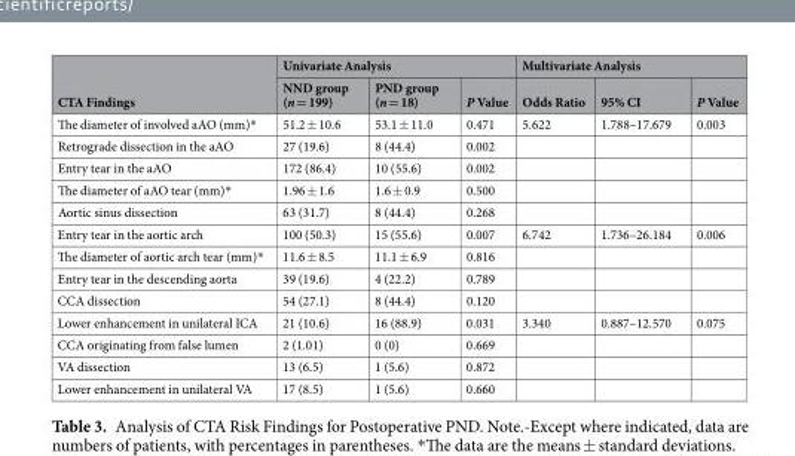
<table><thead><tr><td rowspan="2">CTA Findings</td><td colspan="3">Univariate Analysis</td><td colspan="3">Multivariate Analysis</td></tr><tr><td>NND group (n = 199)</td><td>PND group (n = 18)</td><td>P Value</td><td>Odds Ratio</td><td>95% CI</td><td>P Value</td></tr></thead><tbody><tr><td>The diameter of involved aAO (mm)*</td><td>51.2 ± 10.6</td><td>53.1 ± 11.0</td><td>0.471</td><td>5.622</td><td>1.788–17.679</td><td>0.003</td></tr><tr><td>Retrograde dissection in the aAO</td><td>27 (19.6)</td><td>8 (44.4)</td><td>0.002</td><td></td><td></td><td></td></tr><tr><td>Entry tear in the aAO</td><td>172 (86.4)</td><td>10 (55.6)</td><td>0.002</td><td></td><td></td><td></td></tr><tr><td>The diameter of aAO tear (mm)*</td><td>1.96 ± 1.6</td><td>1.6 ± 0.9</td><td>0.500</td><td></td><td></td><td></td></tr><tr><td>Aortic sinus dissection</td><td>63 (31.7)</td><td>8 (44.4)</td><td>0.268</td><td></td><td></td><td></td></tr><tr><td>Entry tear in the aortic arch</td><td>100 (50.3)</td><td>15 (55.6)</td><td>0.007</td><td>6.742</td><td>1.736–26.184</td><td>0.006</td></tr><tr><td>The diameter of aortic arch tear (mm)*</td><td>11.6 ± 8.5</td><td>11.1 ± 6.9</td><td>0.816</td><td></td><td></td><td></td></tr><tr><td>Entry tear in the descending aorta</td><td>39 (19.6)</td><td>4 (22.2)</td><td>0.789</td><td></td><td></td><td></td></tr><tr><td>CCA dissection</td><td>54 (27.1)</td><td>8 (44.4)</td><td>0.120</td><td></td><td></td><td></td></tr><tr><td>Lower enhancement in unilateral ICA</td><td>21 (10.6)</td><td>16 (88.9)</td><td>0.031</td><td>3.340</td><td>0.887–12.570</td><td>0.075</td></tr><tr><td>CCA originating from false lumen</td><td>2 (1.01)</td><td>0 (0)</td><td>0.669</td><td></td><td></td><td></td></tr><tr><td>VA dissection</td><td>13 (6.5)</td><td>1 (5.6)</td><td>0.872</td><td></td><td></td><td></td></tr><tr><td>Lower enhancement in unilateral VA</td><td>17 (8.5)</td><td>1 (5.6)</td><td>0.660</td><td></td><td></td><td></td></tr></tbody></table>